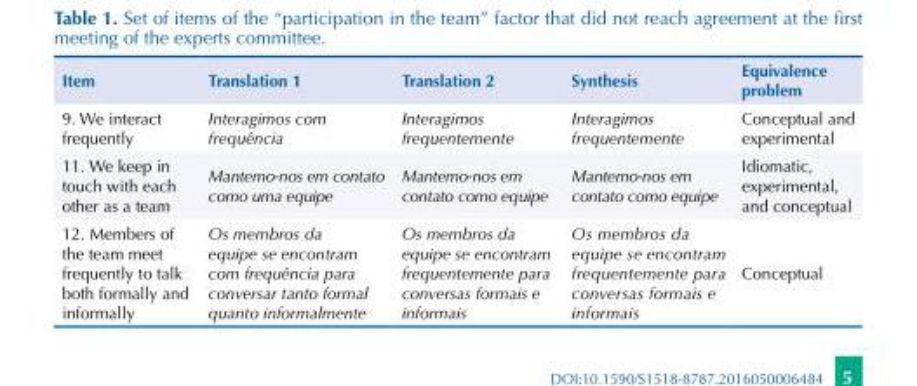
<table><thead><tr><td>Item</td><td>Translation 1</td><td>Translation 2</td><td>Synthesis</td><td>Equivalence problem</td></tr></thead><tbody><tr><td>9. We interact frequently</td><td>Interagimos com frequência</td><td>Interagimos frequentemente</td><td>Interagimos frequentemente</td><td>Conceptual and experimental</td></tr><tr><td>11. We keep in touch with each other as a team</td><td>Mantemo-nos em contato como uma equipe</td><td>Mantemo-nos em contato como equipe</td><td>Mantemo-nos em contato como equipe</td><td>Idiomatic, experimental, and conceptual</td></tr><tr><td>12. Members of the team meet frequently to talk both formally and informally</td><td>Os membros da equipe se encontram com frequência para conversar tanto formal quanto informalmente</td><td>Os membros da equipe se encontram frequentemente para conversas formais e informais</td><td>Os membros da equipe se encontram frequentemente para conversas formais e informais</td><td>Conceptual</td></tr></tbody></table>